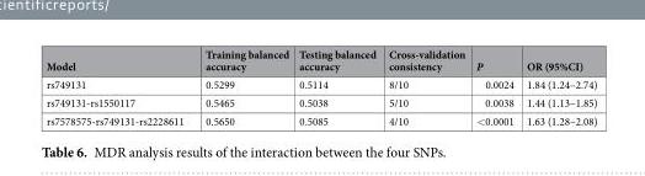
<table><thead><tr><td>Model</td><td>Training balanced accuracy</td><td>Testing balanced accuracy</td><td>Cross-validation consistency</td><td>P</td><td>OR (95%CI)</td></tr></thead><tbody><tr><td>rs749131</td><td>0.5299</td><td>0.5114</td><td>8/10</td><td>0.0024</td><td>1.84 (1.24–2.74)</td></tr><tr><td>rs749131-rs1550117</td><td>0.5465</td><td>0.5038</td><td>5/10</td><td>0.0038</td><td>1.44 (1.13–1.85)</td></tr><tr><td>rs7578575-rs749131-rs2228611</td><td>0.5650</td><td>0.5085</td><td>4/10</td><td>&lt;0.0001</td><td>1.63 (1.28–2.08)</td></tr></tbody></table>